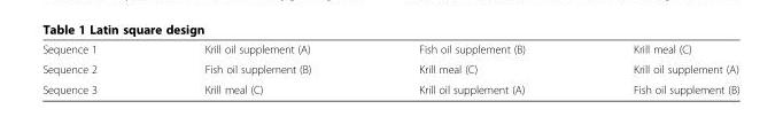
<table><tbody><tr><td>Sequence 1</td><td>Krill oil supplement (A)</td><td>Fish oil supplement (B)</td><td>Krill meal (C)</td></tr><tr><td>Sequence 2</td><td>Fish oil supplement (B)</td><td>Krill meal (C)</td><td>Krill oil supplement (A)</td></tr><tr><td>Sequence 3</td><td>Krill meal (C)</td><td>Krill oil supplement (A)</td><td>Fish oil supplement (B)</td></tr></tbody></table>